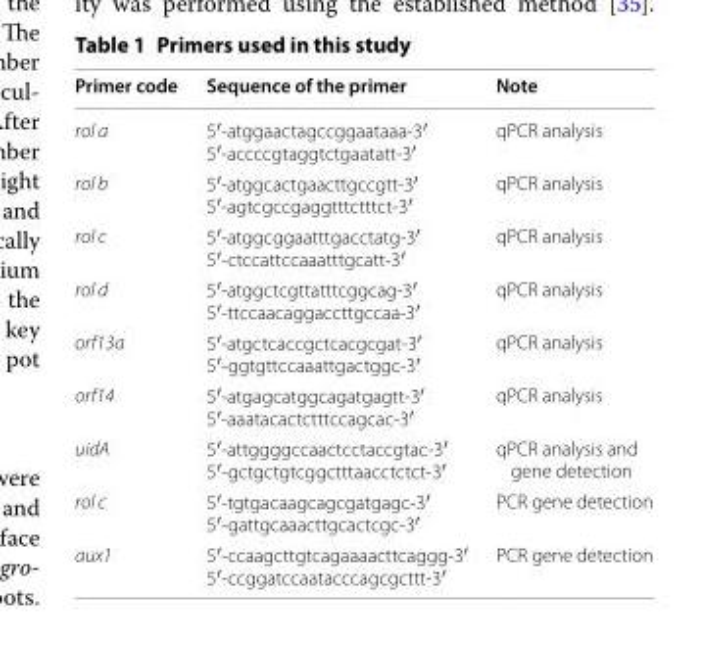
<table><thead><tr><td>Primer code</td><td>Sequence of the primer</td><td>Note</td></tr></thead><tbody><tr><td>rol a</td><td>5′-atggaactagccggaataaa-3′ 5′-accccgtaggtctgaatatt-3′</td><td>qPCR analysis</td></tr><tr><td>rol b</td><td>5′-atggcactgaacttgccgtt-3′ 5′-agtcgccgaggtttctttct-3′</td><td>qPCR analysis</td></tr><tr><td>rol c</td><td>5′-atggcggaatttgacctatg-3′ 5′-ctccattccaaatttgcatt-3′</td><td>qPCR analysis</td></tr><tr><td>rol d</td><td>5′-atggctcgttatttcggcag-3′ 5′-ttccaacaggaccttgccaa-3′</td><td>qPCR analysis</td></tr><tr><td>orf13a</td><td>5′-atgctcaccgctcacgcgat-3′ 5′-ggtgttccaaattgactggc-3′</td><td>qPCR analysis</td></tr><tr><td>orf14</td><td>5′-atgagcatggcagatgagtt-3′ 5′-aaatacactctttccagcac-3′</td><td>qPCR analysis</td></tr><tr><td>uidA</td><td>5′-attggggccaactcctaccgtac-3′ 5′-gctgctgtcggctttaacctctct-3′</td><td>qPCR analysis and gene detection</td></tr><tr><td>rol c</td><td>5′-tgtgacaagcagcgatgagc-3′ 5′-gattgcaaacttgcactcgc-3′</td><td>PCR gene detection</td></tr><tr><td>aux1</td><td>5′-ccaagcttgtcagaaaacttcaggg-3′ 5′-ccggatccaatacccagcgcttt-3′</td><td>PCR gene detection</td></tr></tbody></table>